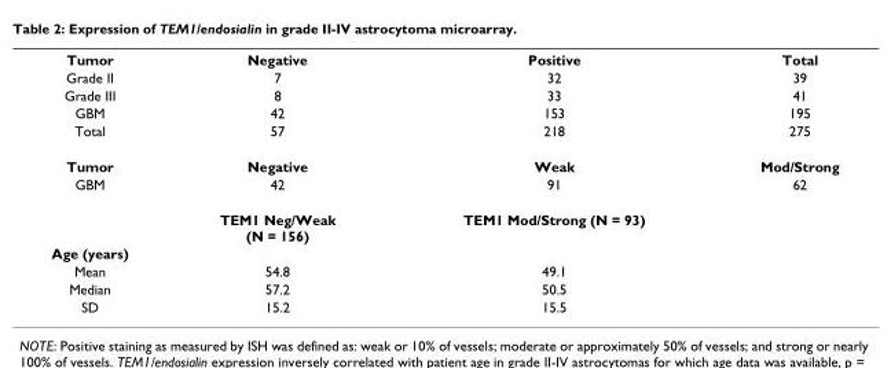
<table><tbody><tr><td>Tumor</td><td>Negative</td><td>Positive</td><td>Total</td></tr><tr><td>Grade II</td><td>7</td><td>32</td><td>39</td></tr><tr><td>Grade III</td><td>8</td><td>33</td><td>41</td></tr><tr><td>GBM</td><td>42</td><td>153</td><td>195</td></tr><tr><td>Total</td><td>57</td><td>218</td><td>275</td></tr><tr><td>Tumor</td><td>Negative</td><td>Weak</td><td>Mod/Strong</td></tr><tr><td rowspan="2">GBM</td><td>42</td><td>91</td><td>62</td></tr><tr><td>TEM1 Neg/Weak (N = 156)</td><td>TEM1 Mod/Strong (N = 93)</td><td></td></tr><tr><td colspan="4">Age (years)</td></tr><tr><td>Mean</td><td>54.8</td><td>49.1</td><td></td></tr><tr><td>Median</td><td>57.2</td><td>50.5</td><td></td></tr><tr><td>SD</td><td>15.2</td><td>15.5</td><td></td></tr></tbody></table>